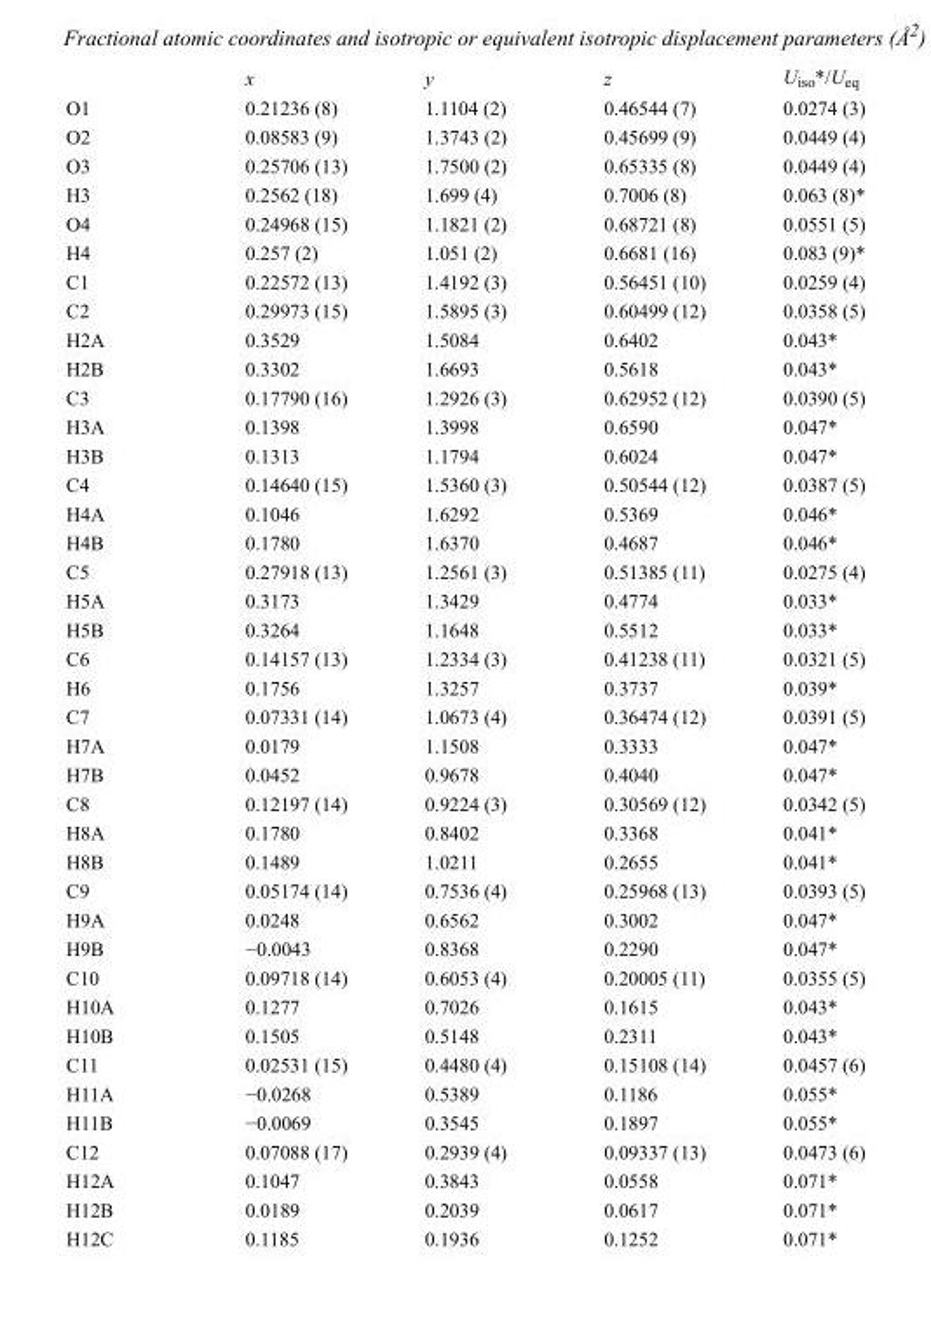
<table><thead><tr><td></td><td>x</td><td>y</td><td>z</td><td>U<sub>iso</sub>*/U<sub>eq</sub></td></tr></thead><tbody><tr><td>O1</td><td>0.21236 (8)</td><td>1.1104 (2)</td><td>0.46544 (7)</td><td>0.0274 (3)</td></tr><tr><td>O2</td><td>0.08583 (9)</td><td>1.3743 (2)</td><td>0.45699 (9)</td><td>0.0449 (4)</td></tr><tr><td>O3</td><td>0.25706 (13)</td><td>1.7500 (2)</td><td>0.65335 (8)</td><td>0.0449 (4)</td></tr><tr><td>H3</td><td>0.2562 (18)</td><td>1.699 (4)</td><td>0.7006 (8)</td><td>0.063 (8)*</td></tr><tr><td>O4</td><td>0.24968 (15)</td><td>1.1821 (2)</td><td>0.68721 (8)</td><td>0.0551 (5)</td></tr><tr><td>H4</td><td>0.257 (2)</td><td>1.051 (2)</td><td>0.6681 (16)</td><td>0.083 (9)*</td></tr><tr><td>C1</td><td>0.22572 (13)</td><td>1.4192 (3)</td><td>0.56451 (10)</td><td>0.0259 (4)</td></tr><tr><td>C2</td><td>0.29973 (15)</td><td>1.5895 (3)</td><td>0.60499 (12)</td><td>0.0358 (5)</td></tr><tr><td>H2A</td><td>0.3529</td><td>1.5084</td><td>0.6402</td><td>0.043*</td></tr><tr><td>H2B</td><td>0.3302</td><td>1.6693</td><td>0.5618</td><td>0.043*</td></tr><tr><td>C3</td><td>0.17790 (16)</td><td>1.2926 (3)</td><td>0.62952 (12)</td><td>0.0390 (5)</td></tr><tr><td>H3A</td><td>0.1398</td><td>1.3998</td><td>0.6590</td><td>0.047*</td></tr><tr><td>H3B</td><td>0.1313</td><td>1.1794</td><td>0.6024</td><td>0.047*</td></tr><tr><td>C4</td><td>0.14640 (15)</td><td>1.5360 (3)</td><td>0.50544 (12)</td><td>0.0387 (5)</td></tr><tr><td>H4A</td><td>0.1046</td><td>1.6292</td><td>0.5369</td><td>0.046*</td></tr><tr><td>H4B</td><td>0.1780</td><td>1.6370</td><td>0.4687</td><td>0.046*</td></tr><tr><td>C5</td><td>0.27918 (13)</td><td>1.2561 (3)</td><td>0.51385 (11)</td><td>0.0275 (4)</td></tr><tr><td>H5A</td><td>0.3173</td><td>1.3429</td><td>0.4774</td><td>0.033*</td></tr><tr><td>H5B</td><td>0.3264</td><td>1.1648</td><td>0.5512</td><td>0.033*</td></tr><tr><td>C6</td><td>0.14157 (13)</td><td>1.2334 (3)</td><td>0.41238 (11)</td><td>0.0321 (5)</td></tr><tr><td>H6</td><td>0.1756</td><td>1.3257</td><td>0.3737</td><td>0.039*</td></tr><tr><td>C7</td><td>0.07331 (14)</td><td>1.0673 (4)</td><td>0.36474 (12)</td><td>0.0391 (5)</td></tr><tr><td>H7A</td><td>0.0179</td><td>1.1508</td><td>0.3333</td><td>0.047*</td></tr><tr><td>H7B</td><td>0.0452</td><td>0.9678</td><td>0.4040</td><td>0.047*</td></tr><tr><td>C8</td><td>0.12197 (14)</td><td>0.9224 (3)</td><td>0.30569 (12)</td><td>0.0342 (5)</td></tr><tr><td>H8A</td><td>0.1780</td><td>0.8402</td><td>0.3368</td><td>0.041*</td></tr><tr><td>H8B</td><td>0.1489</td><td>1.0211</td><td>0.2655</td><td>0.041*</td></tr><tr><td>C9</td><td>0.05174 (14)</td><td>0.7536 (4)</td><td>0.25968 (13)</td><td>0.0393 (5)</td></tr><tr><td>H9A</td><td>0.0248</td><td>0.6562</td><td>0.3002</td><td>0.047*</td></tr><tr><td>H9B</td><td>−0.0043</td><td>0.8368</td><td>0.2290</td><td>0.047*</td></tr><tr><td>C10</td><td>0.09718 (14)</td><td>0.6053 (4)</td><td>0.20005 (11)</td><td>0.0355 (5)</td></tr><tr><td>H10A</td><td>0.1277</td><td>0.7026</td><td>0.1615</td><td>0.043*</td></tr><tr><td>H10B</td><td>0.1505</td><td>0.5148</td><td>0.2311</td><td>0.043*</td></tr><tr><td>C11</td><td>0.02531 (15)</td><td>0.4480 (4)</td><td>0.15108 (14)</td><td>0.0457 (6)</td></tr><tr><td>H11A</td><td>−0.0268</td><td>0.5389</td><td>0.1186</td><td>0.055*</td></tr><tr><td>H11B</td><td>−0.0069</td><td>0.3545</td><td>0.1897</td><td>0.055*</td></tr><tr><td>C12</td><td>0.07088 (17)</td><td>0.2939 (4)</td><td>0.09337 (13)</td><td>0.0473 (6)</td></tr><tr><td>H12A</td><td>0.1047</td><td>0.3843</td><td>0.0558</td><td>0.071*</td></tr><tr><td>H12B</td><td>0.0189</td><td>0.2039</td><td>0.0617</td><td>0.071*</td></tr><tr><td>H12C</td><td>0.1185</td><td>0.1936</td><td>0.1252</td><td>0.071*</td></tr></tbody></table>